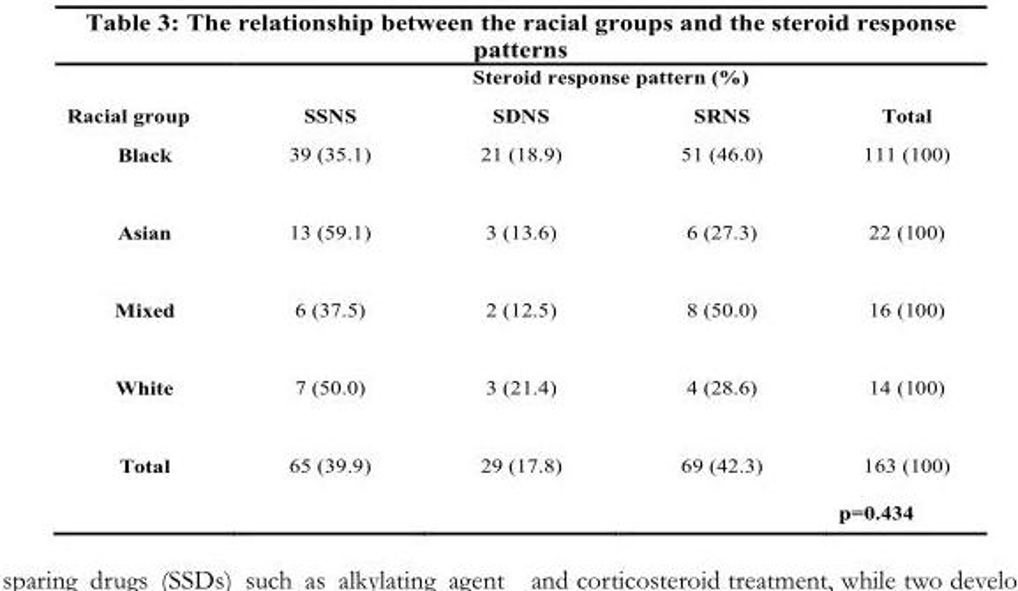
<table><thead><tr><td rowspan="2">Racial group</td><td colspan="4">Steroid response pattern (%)</td></tr><tr><td>SSNS</td><td>SDNS</td><td>SRNS</td><td>Total</td></tr></thead><tbody><tr><td>Black</td><td>39 (35.1)</td><td>21 (18.9)</td><td>51 (46.0)</td><td>111 (100)</td></tr><tr><td>Asian</td><td>13 (59.1)</td><td>3 (13.6)</td><td>6 (27.3)</td><td>22 (100)</td></tr><tr><td>Mixed</td><td>6 (37.5)</td><td>2 (12.5)</td><td>8 (50.0)</td><td>16 (100)</td></tr><tr><td>White</td><td>7 (50.0)</td><td>3 (21.4)</td><td>4 (28.6)</td><td>14 (100)</td></tr><tr><td rowspan="2">Total</td><td>65 (39.9)</td><td>29 (17.8)</td><td>69 (42.3)</td><td>163 (100)</td></tr><tr><td></td><td></td><td></td><td>p=0.434</td></tr></tbody></table>